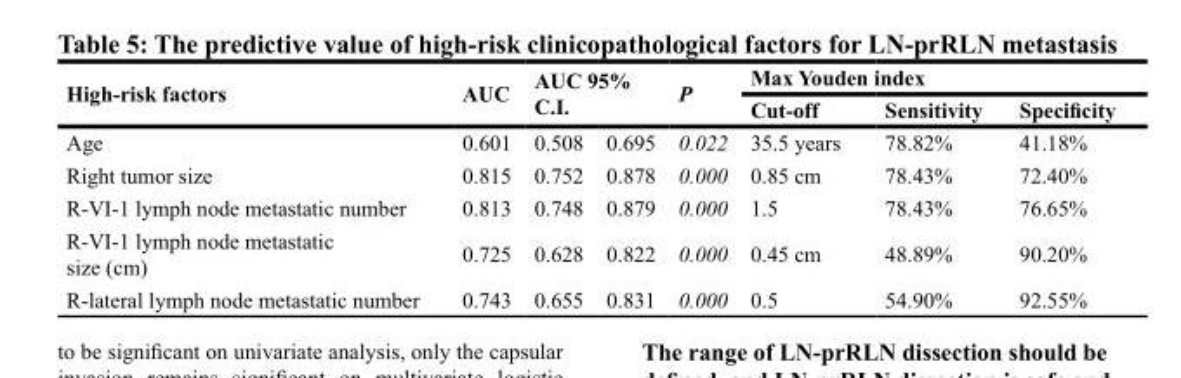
<table><thead><tr><td rowspan="3">High-risk factors Age</td><td rowspan="3">AUC 0.601</td><td rowspan="2" colspan="2">AUC 95% C.I.</td><td rowspan="3">P 0.022</td><td colspan="3">Max Youden index</td></tr><tr><td rowspan="2">Cut-off 35.5 years</td><td rowspan="2">Sensitivity 78.82%</td><td rowspan="2">Specificity 41.18%</td></tr><tr><td>0.508</td><td>0.695</td></tr></thead><tbody><tr><td>Right tumor size</td><td>0.815</td><td>0.752</td><td>0.878</td><td>0.000</td><td>0.85 cm</td><td>78.43%</td><td>72.40%</td></tr><tr><td>R-VI-1 lymph node metastatic number</td><td>0.813</td><td>0.748</td><td>0.879</td><td>0.000</td><td>1.5</td><td>78.43%</td><td>76.65%</td></tr><tr><td>R-VI-1 lymph node metastatic size (cm)</td><td>0.725</td><td>0.628</td><td>0.822</td><td>0.000</td><td>0.45 cm</td><td>48.89%</td><td>90.20%</td></tr><tr><td>R-lateral lymph node metastatic number</td><td>0.743</td><td>0.655</td><td>0.831</td><td>0.000</td><td>0.5</td><td>54.90%</td><td>92.55%</td></tr></tbody></table>